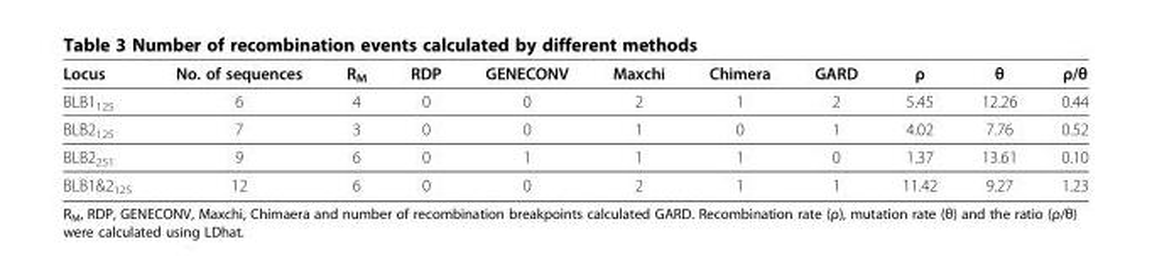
<table><thead><tr><td>Locus</td><td>No. of sequences</td><td>R<sub>M</sub></td><td>RDP</td><td>GENECONV</td><td>Maxchi</td><td>Chimera</td><td>GARD</td><td>ρ</td><td>θ</td><td>ρ/θ</td></tr></thead><tbody><tr><td>BLB1<sub>125</sub></td><td>6</td><td>4</td><td>0</td><td>0</td><td>2</td><td>1</td><td>2</td><td>5.45</td><td>12.26</td><td>0.44</td></tr><tr><td>BLB2<sub>125</sub></td><td>7</td><td>3</td><td>0</td><td>0</td><td>1</td><td>0</td><td>1</td><td>4.02</td><td>7.76</td><td>0.52</td></tr><tr><td>BLB2<sub>251</sub></td><td>9</td><td>6</td><td>0</td><td>1</td><td>1</td><td>1</td><td>0</td><td>1.37</td><td>13.61</td><td>0.10</td></tr><tr><td>BLB1&amp;2<sub>125</sub></td><td>12</td><td>6</td><td>0</td><td>0</td><td>2</td><td>1</td><td>1</td><td>11.42</td><td>9.27</td><td>1.23</td></tr></tbody></table>